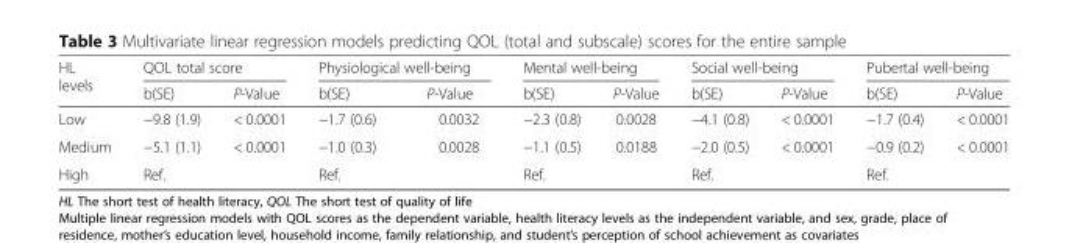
<table><thead><tr><td rowspan="2">HL levels</td><td colspan="2">QOL total score</td><td colspan="2">Physiological well-being</td><td colspan="2">Mental well-being</td><td colspan="2">Social well-being</td><td colspan="2">Pubertal well-being</td></tr><tr><td>b(SE)</td><td>P-Value</td><td>b(SE)</td><td>P-Value</td><td>b(SE)</td><td>P-Value</td><td>b(SE)</td><td>P-Value</td><td>b(SE)</td><td>P-Value</td></tr></thead><tbody><tr><td>Low</td><td>−9.8 (1.9)</td><td>&lt; 0.0001</td><td>−1.7 (0.6)</td><td>0.0032</td><td>−2.3 (0.8)</td><td>0.0028</td><td>−4.1 (0.8)</td><td>&lt; 0.0001</td><td>−1.7 (0.4)</td><td>&lt; 0.0001</td></tr><tr><td>Medium</td><td>−5.1 (1.1)</td><td>&lt; 0.0001</td><td>−1.0 (0.3)</td><td>0.0028</td><td>−1.1 (0.5)</td><td>0.0188</td><td>−2.0 (0.5)</td><td>&lt; 0.0001</td><td>−0.9 (0.2)</td><td>&lt; 0.0001</td></tr><tr><td>High</td><td>Ref.</td><td></td><td>Ref.</td><td></td><td>Ref.</td><td></td><td>Ref.</td><td></td><td>Ref.</td><td></td></tr></tbody></table>